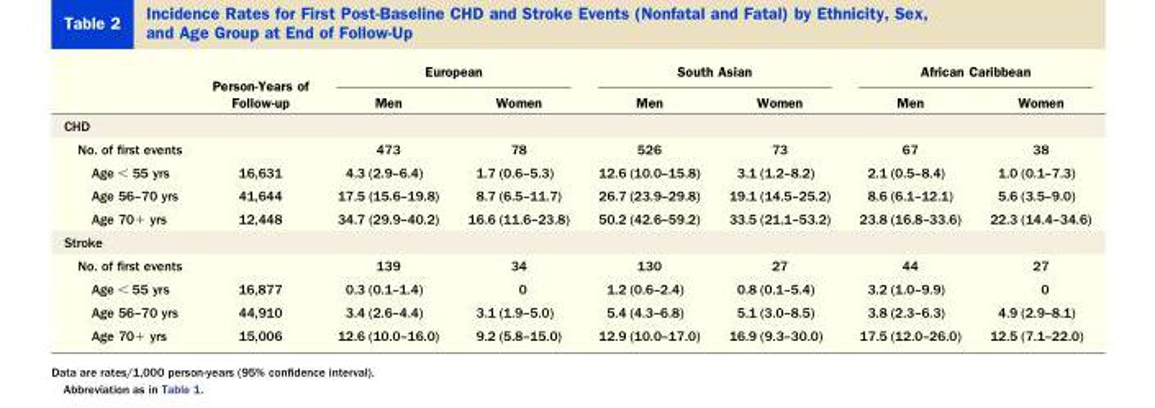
<table><thead><tr><td rowspan="2"></td><td rowspan="2">Person-Years of Follow-up</td><td colspan="2">European</td><td colspan="2">South Asian</td><td colspan="2">African Caribbean</td></tr><tr><td>Men</td><td>Women</td><td>Men</td><td>Women</td><td>Men</td><td>Women</td></tr></thead><tbody><tr><td colspan="8">CHD</td></tr><tr><td>No. of first events</td><td></td><td>473</td><td>78</td><td>526</td><td>73</td><td>67</td><td>38</td></tr><tr><td>Age &lt; 55 yrs</td><td>16,631</td><td>4.3 (2.9–6.4)</td><td>1.7 (0.6–5.3)</td><td>12.6 (10.0–15.8)</td><td>3.1 (1.2–8.2)</td><td>2.1 (0.5–8.4)</td><td>1.0 (0.1–7.3)</td></tr><tr><td>Age 56–70 yrs</td><td>41,644</td><td>17.5 (15.6–19.8)</td><td>8.7 (6.5–11.7)</td><td>26.7 (23.9–29.8)</td><td>19.1 (14.5–25.2)</td><td>8.6 (6.1–12.1)</td><td>5.6 (3.5–9.0)</td></tr><tr><td>Age 70+ yrs</td><td>12,448</td><td>34.7 (29.9–40.2)</td><td>16.6 (11.6–23.8)</td><td>50.2 (42.6–59.2)</td><td>33.5 (21.1–53.2)</td><td>23.8 (16.8–33.6)</td><td>22.3 (14.4–34.6)</td></tr><tr><td colspan="8">Stroke</td></tr><tr><td>No. of first events</td><td></td><td>139</td><td>34</td><td>130</td><td>27</td><td>44</td><td>27</td></tr><tr><td>Age &lt; 55 yrs</td><td>16,877</td><td>0.3 (0.1–1.4)</td><td>0</td><td>1.2 (0.6–2.4)</td><td>0.8 (0.1–5.4)</td><td>3.2 (1.0–9.9)</td><td>0</td></tr><tr><td>Age 56–70 yrs</td><td>44,910</td><td>3.4 (2.6–4.4)</td><td>3.1 (1.9–5.0)</td><td>5.4 (4.3–6.8)</td><td>5.1 (3.0–8.5)</td><td>3.8 (2.3–6.3)</td><td>4.9 (2.9–8.1)</td></tr><tr><td>Age 70+ yrs</td><td>15,006</td><td>12.6 (10.0–16.0)</td><td>9.2 (5.8–15.0)</td><td>12.9 (10.0–17.0)</td><td>16.9 (9.3–30.0)</td><td>17.5 (12.0–26.0)</td><td>12.5 (7.1–22.0)</td></tr></tbody></table>